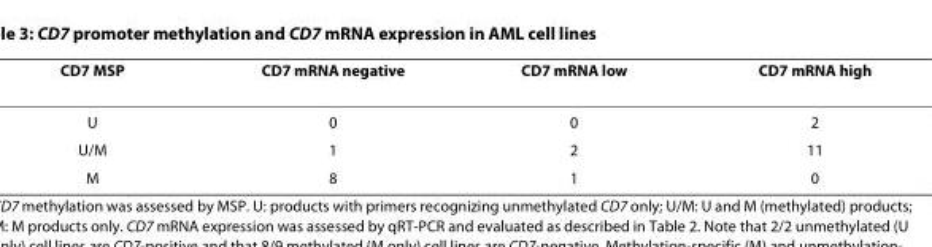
<table><thead><tr><td>CD7 MSP</td><td>CD7 mRNA negative</td><td>CD7 mRNA low</td><td>CD7 mRNA high</td></tr></thead><tbody><tr><td>U</td><td>0</td><td>0</td><td>2</td></tr><tr><td>U/M</td><td>1</td><td>2</td><td>11</td></tr><tr><td>M</td><td>8</td><td>1</td><td>0</td></tr></tbody></table>